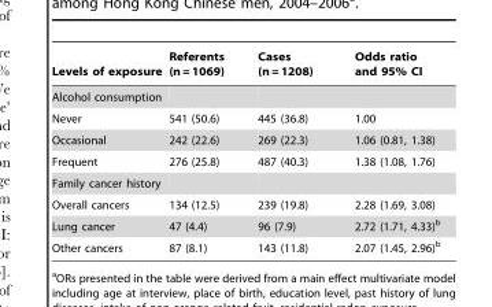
<table><thead><tr><td>Levels of exposure</td><td>Referents (n = 1069)</td><td>Cases (n = 1208)</td><td>Odds ratio and 95% CI</td></tr></thead><tbody><tr><td colspan="4">Alcohol consumption</td></tr><tr><td>Never</td><td>541 (50.6)</td><td>445 (36.8)</td><td>1.00</td></tr><tr><td>Occasional</td><td>242 (22.6)</td><td>269 (22.3)</td><td>1.06 (0.81, 1.38)</td></tr><tr><td>Frequent</td><td>276 (25.8)</td><td>487 (40.3)</td><td>1.38 (1.08, 1.76)</td></tr><tr><td colspan="4">Family cancer history</td></tr><tr><td>Overall cancers</td><td>134 (12.5)</td><td>239 (19.8)</td><td>2.28 (1.69, 3.08)</td></tr><tr><td>Lung cancer</td><td>47 (4.4)</td><td>96 (7.9)</td><td>2.72 (1.71, 4.33)<sup>b</sup></td></tr><tr><td>Other cancers</td><td>87 (8.1)</td><td>143 (11.8)</td><td>2.07 (1.45, 2.96)<sup>b</sup></td></tr></tbody></table>